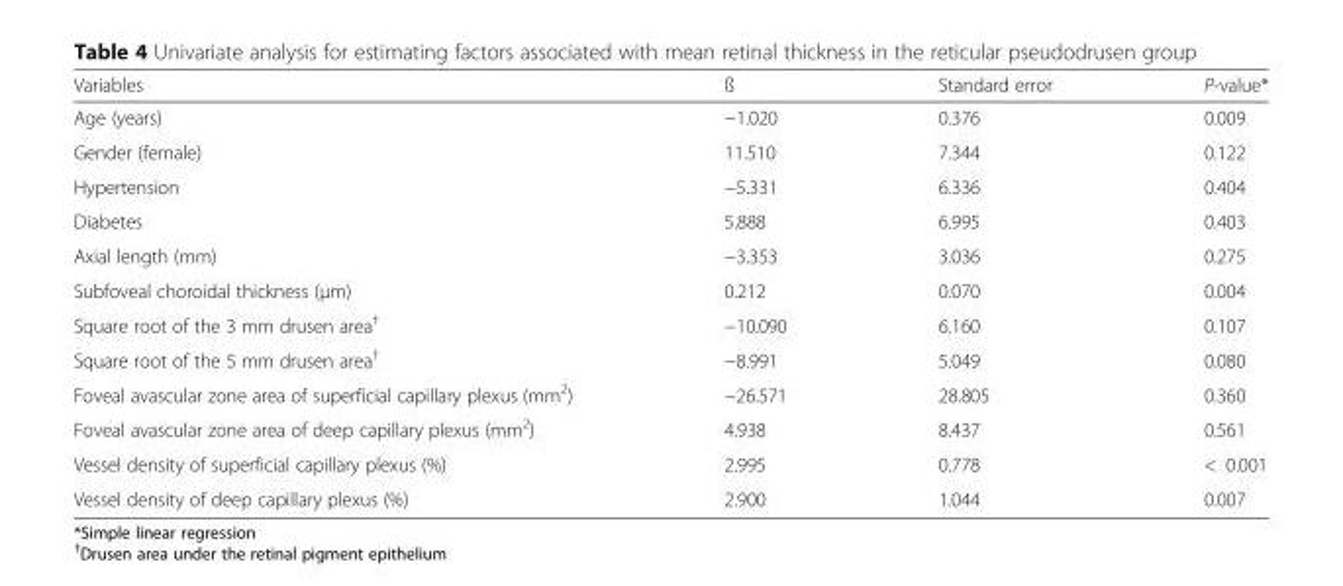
<table><thead><tr><td>Variables</td><td>ß</td><td>Standard error</td><td>P-value*</td></tr></thead><tbody><tr><td>Age (years)</td><td>−1.020</td><td>0.376</td><td>0.009</td></tr><tr><td>Gender (female)</td><td>11.510</td><td>7.344</td><td>0.122</td></tr><tr><td>Hypertension</td><td>−5.331</td><td>6.336</td><td>0.404</td></tr><tr><td>Diabetes</td><td>5.888</td><td>6.995</td><td>0.403</td></tr><tr><td>Axial length (mm)</td><td>−3.353</td><td>3.036</td><td>0.275</td></tr><tr><td>Subfoveal choroidal thickness (μm)</td><td>0.212</td><td>0.070</td><td>0.004</td></tr><tr><td>Square root of the 3 mm drusen area<sup>†</sup></td><td>−10.090</td><td>6.160</td><td>0.107</td></tr><tr><td>Square root of the 5 mm drusen area<sup>†</sup></td><td>−8.991</td><td>5.049</td><td>0.080</td></tr><tr><td>Foveal avascular zone area of superficial capillary plexus (mm<sup>2</sup>)</td><td>−26.571</td><td>28.805</td><td>0.360</td></tr><tr><td>Foveal avascular zone area of deep capillary plexus (mm<sup>2</sup>)</td><td>4.938</td><td>8.437</td><td>0.561</td></tr><tr><td>Vessel density of superficial capillary plexus (%)</td><td>2.995</td><td>0.778</td><td>&lt; 0.001</td></tr><tr><td>Vessel density of deep capillary plexus (%)</td><td>2.900</td><td>1.044</td><td>0.007</td></tr></tbody></table>